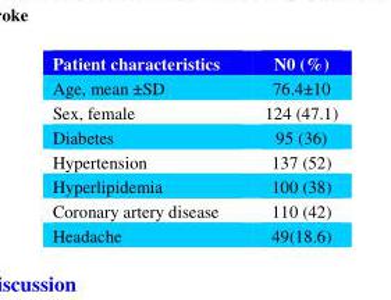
<table><thead><tr><td>Patient characteristics</td><td>N0 (%)</td></tr></thead><tbody><tr><td>Age, mean ±SD</td><td>76.4±10</td></tr><tr><td>Sex, female</td><td>124 (47.1)</td></tr><tr><td>Diabetes</td><td>95 (36)</td></tr><tr><td>Hypertension</td><td>137 (52)</td></tr><tr><td>Hyperlipidemia</td><td>100 (38)</td></tr><tr><td>Coronary artery disease</td><td>110 (42)</td></tr><tr><td>Headache</td><td>49(18.6)</td></tr></tbody></table>